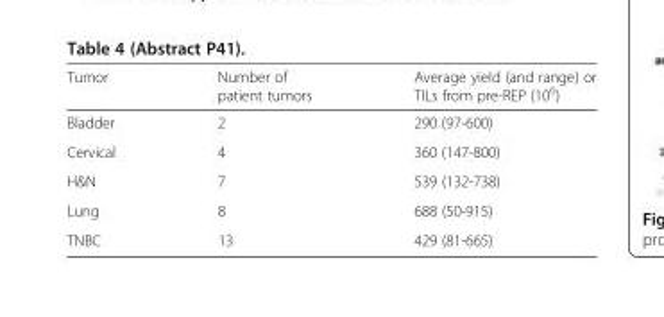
<table><thead><tr><td>Tumor</td><td>Number of patient tumors</td><td>Average yield (and range) or TILs from pre-REP (10<sup>6</sup>)</td></tr></thead><tbody><tr><td>Bladder</td><td>2</td><td>290 (97-600)</td></tr><tr><td>Cervical</td><td>4</td><td>360 (147-800)</td></tr><tr><td>H&amp;N</td><td>7</td><td>539 (132-738)</td></tr><tr><td>Lung</td><td>8</td><td>688 (50-915)</td></tr><tr><td>TNBC</td><td>13</td><td>429 (81-665)</td></tr></tbody></table>